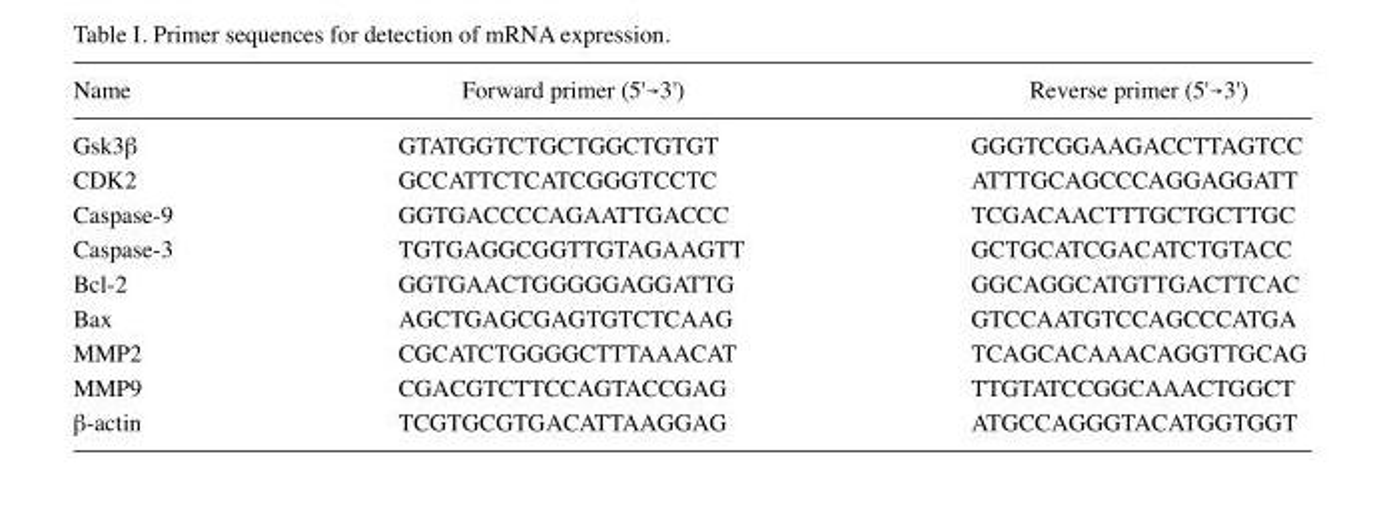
<table><thead><tr><td>Name</td><td>Forward primer (5&#x27;→3&#x27;)</td><td>Reverse primer (5&#x27;→3&#x27;)</td></tr></thead><tbody><tr><td>Gsk3β</td><td>GTATGGTCTGCTGGCTGTGT</td><td>GGGTCGGAAGACCTTAGTCC</td></tr><tr><td>CDK2</td><td>GCCATTCTCATCGGGTCCTC</td><td>ATTTGCAGCCCAGGAGGATT</td></tr><tr><td>Caspase-9</td><td>GGTGACCCCAGAATTGACCC</td><td>TCGACAACTTTGCTGCTTGC</td></tr><tr><td>Caspase-3</td><td>TGTGAGGCGGTTGTAGAAGTT</td><td>GCTGCATCGACATCTGTACC</td></tr><tr><td>Bcl-2</td><td>GGTGAACTGGGGGAGGATTG</td><td>GGCAGGCATGTTGACTTCAC</td></tr><tr><td>Bax</td><td>AGCTGAGCGAGTGTCTCAAG</td><td>GTCCAATGTCCAGCCCATGA</td></tr><tr><td>MMP2</td><td>CGCATCTGGGGCTTTAAACAT</td><td>TCAGCACAAACAGGTTGCAG</td></tr><tr><td>MMP9</td><td>CGACGTCTTCCAGTACCGAG</td><td>TTGTATCCGGCAAACTGGCT</td></tr><tr><td>β-actin</td><td>TCGTGCGTGACATTAAGGAG</td><td>ATGCCAGGGTACATGGTGGT</td></tr></tbody></table>